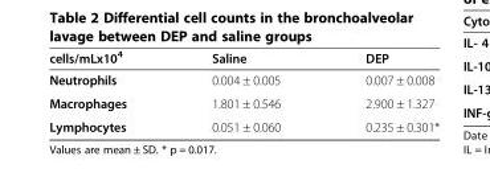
<table><thead><tr><td>cells/mLx10<sup>4</sup></td><td>Saline</td><td>DEP</td></tr></thead><tbody><tr><td>Neutrophils</td><td>0.004 ± 0.005</td><td>0.007 ± 0.008</td></tr><tr><td>Macrophages</td><td>1.801 ± 0.546</td><td>2.900 ± 1.327</td></tr><tr><td>Lymphocytes</td><td>0.051 ± 0.060</td><td>0.235 ± 0.301*</td></tr></tbody></table>